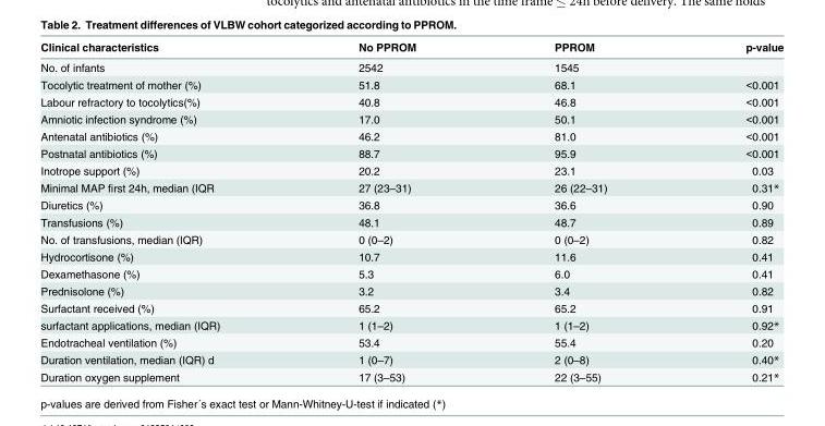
<table><thead><tr><td>Clinical characteristics</td><td>No PPROM</td><td>PPROM</td><td>p-value</td></tr></thead><tbody><tr><td>No. of infants</td><td>2542</td><td>1545</td><td></td></tr><tr><td>Tocolytic treatment of mother (%)</td><td>51.8</td><td>68.1</td><td>&lt;0.001</td></tr><tr><td>Labour refractory to tocolytics(%)</td><td>40.8</td><td>46.8</td><td>&lt;0.001</td></tr><tr><td>Amniotic infection syndrome (%)</td><td>17.0</td><td>50.1</td><td>&lt;0.001</td></tr><tr><td>Antenatal antibiotics (%)</td><td>46.2</td><td>81.0</td><td>&lt;0.001</td></tr><tr><td>Postnatal antibiotics (%)</td><td>88.7</td><td>95.9</td><td>&lt;0.001</td></tr><tr><td>Inotrope support (%)</td><td>20.2</td><td>23.1</td><td>0.03</td></tr><tr><td>Minimal MAP first 24h, median (IQR</td><td>27 (23–31)</td><td>26 (22–31)</td><td>0.31*</td></tr><tr><td>Diuretics (%)</td><td>36.8</td><td>36.6</td><td>0.90</td></tr><tr><td>Transfusions (%)</td><td>48.1</td><td>48.7</td><td>0.89</td></tr><tr><td>No. of transfusions, median (IQR)</td><td>0 (0–2)</td><td>0 (0–2)</td><td>0.82</td></tr><tr><td>Hydrocortisone (%)</td><td>10.7</td><td>11.6</td><td>0.41</td></tr><tr><td>Dexamethasone (%)</td><td>5.3</td><td>6.0</td><td>0.41</td></tr><tr><td>Prednisolone (%)</td><td>3.2</td><td>3.4</td><td>0.82</td></tr><tr><td>Surfactant received (%)</td><td>65.2</td><td>65.2</td><td>0.91</td></tr><tr><td>surfactant applications, median (IQR)</td><td>1 (1–2)</td><td>1 (1–2)</td><td>0.92*</td></tr><tr><td>Endotracheal ventilation (%)</td><td>53.4</td><td>55.4</td><td>0.20</td></tr><tr><td>Duration ventilation, median (IQR) d</td><td>1 (0–7)</td><td>2 (0–8)</td><td>0.40*</td></tr><tr><td>Duration oxygen supplement</td><td>17 (3–53)</td><td>22 (3–55)</td><td>0.21*</td></tr></tbody></table>